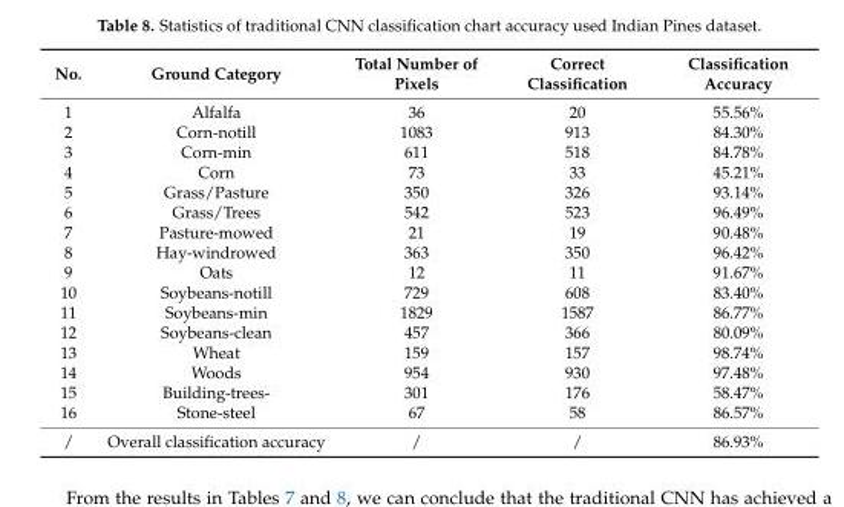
<table><thead><tr><td>No.</td><td>Ground Category</td><td>Total Number of Pixels</td><td>Correct Classification</td><td>Classification Accuracy</td></tr></thead><tbody><tr><td>1</td><td>Alfalfa</td><td>36</td><td>20</td><td>55.56%</td></tr><tr><td>2</td><td>Corn-notill</td><td>1083</td><td>913</td><td>84.30%</td></tr><tr><td>3</td><td>Corn-min</td><td>611</td><td>518</td><td>84.78%</td></tr><tr><td>4</td><td>Corn</td><td>73</td><td>33</td><td>45.21%</td></tr><tr><td>5</td><td>Grass/Pasture</td><td>350</td><td>326</td><td>93.14%</td></tr><tr><td>6</td><td>Grass/Trees</td><td>542</td><td>523</td><td>96.49%</td></tr><tr><td>7</td><td>Pasture-mowed</td><td>21</td><td>19</td><td>90.48%</td></tr><tr><td>8</td><td>Hay-windrowed</td><td>363</td><td>350</td><td>96.42%</td></tr><tr><td>9</td><td>Oats</td><td>12</td><td>11</td><td>91.67%</td></tr><tr><td>10</td><td>Soybeans-notill</td><td>729</td><td>608</td><td>83.40%</td></tr><tr><td>11</td><td>Soybeans-min</td><td>1829</td><td>1587</td><td>86.77%</td></tr><tr><td>12</td><td>Soybeans-clean</td><td>457</td><td>366</td><td>80.09%</td></tr><tr><td>13</td><td>Wheat</td><td>159</td><td>157</td><td>98.74%</td></tr><tr><td>14</td><td>Woods</td><td>954</td><td>930</td><td>97.48%</td></tr><tr><td>15</td><td>Building-trees-</td><td>301</td><td>176</td><td>58.47%</td></tr><tr><td>16</td><td>Stone-steel</td><td>67</td><td>58</td><td>86.57%</td></tr><tr><td>/</td><td>Overall classification accuracy</td><td>/</td><td>/</td><td>86.93%</td></tr></tbody></table>